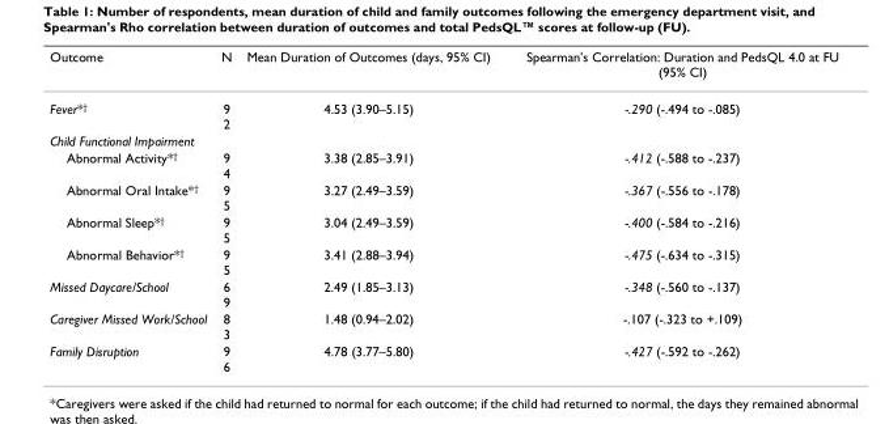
<table><thead><tr><td>Outcome</td><td>N</td><td>Mean Duration of Outcomes (days, 95% CI)</td><td>Spearman&#x27;s Correlation: Duration and PedsQL 4.0 at FU (95% CI)</td></tr></thead><tbody><tr><td>Fever*<sup>†</sup></td><td>9 2</td><td>4.53 (3.90–5.15)</td><td>-.290 (-.494 to -.085)</td></tr><tr><td colspan="4">Child Functional Impairment</td></tr><tr><td>Abnormal Activity*<sup>†</sup></td><td>9 4</td><td>3.38 (2.85–3.91)</td><td>-.412 (-.588 to -.237)</td></tr><tr><td>Abnormal Oral Intake*<sup>†</sup></td><td>9 5</td><td>3.27 (2.49–3.59)</td><td>-.367 (-.556 to -.178)</td></tr><tr><td>Abnormal Sleep*<sup>†</sup></td><td>9 5</td><td>3.04 (2.49–3.59)</td><td>-.400 (-.584 to -.216)</td></tr><tr><td>Abnormal Behavior*<sup>†</sup></td><td>9 5</td><td>3.41 (2.88–3.94)</td><td>-.475 (-.634 to -.315)</td></tr><tr><td>Missed Daycare/School</td><td>6 9</td><td>2.49 (1.85–3.13)</td><td>-.348 (-.560 to -.137)</td></tr><tr><td>Caregiver Missed Work/School</td><td>8 3</td><td>1.48 (0.94–2.02)</td><td>-.107 (-.323 to +.109)</td></tr><tr><td>Family Disruption</td><td>9 6</td><td>4.78 (3.77–5.80)</td><td>-.427 (-.592 to -.262)</td></tr></tbody></table>